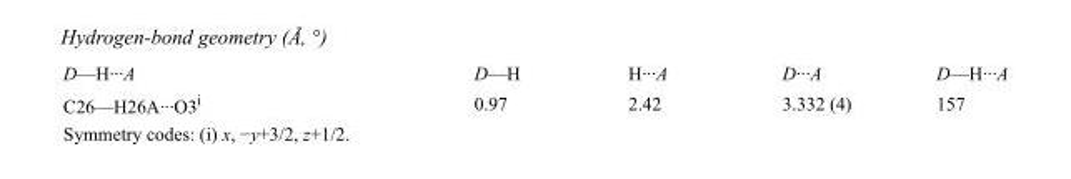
<table><tbody><tr><td>D—H···A</td><td>D—H</td><td>H···A</td><td>D···A</td><td>D—H···A</td></tr><tr><td>C26—H26A···O3<sup>i</sup></td><td>0.97</td><td>2.42</td><td>3.332 (4)</td><td>157</td></tr></tbody></table>